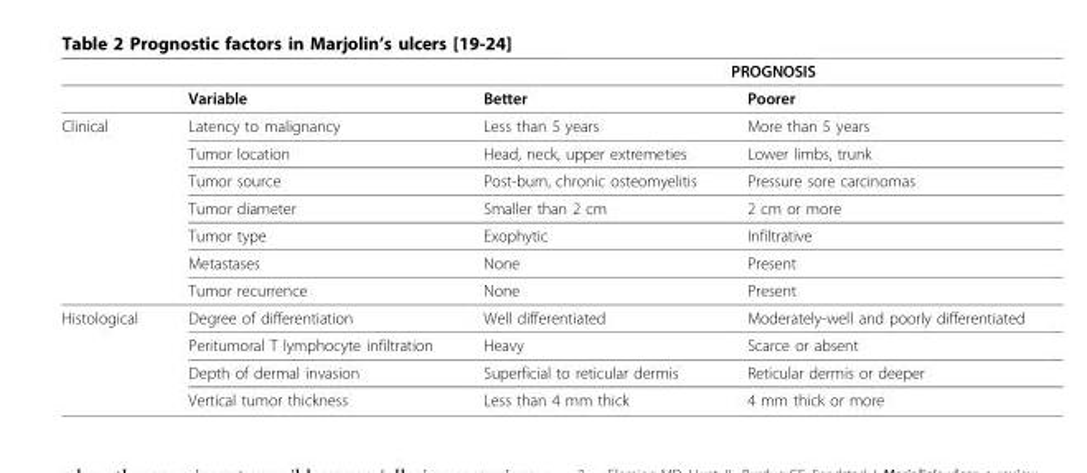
<table><thead><tr><td rowspan="2"></td><td rowspan="2">Variable</td><td colspan="2">PROGNOSIS</td></tr><tr><td>Better</td><td>Poorer</td></tr></thead><tbody><tr><td rowspan="7">Clinical</td><td>Latency to malignancy</td><td>Less than 5 years</td><td>More than 5 years</td></tr><tr><td>Tumor location</td><td>Head, neck, upper extremeties</td><td>Lower limbs, trunk</td></tr><tr><td>Tumor source</td><td>Post-burn, chronic osteomyelitis</td><td>Pressure sore carcinomas</td></tr><tr><td>Tumor diameter</td><td>Smaller than 2 cm</td><td>2 cm or more</td></tr><tr><td>Tumor type</td><td>Exophytic</td><td>Infiltrative</td></tr><tr><td>Metastases</td><td>None</td><td>Present</td></tr><tr><td>Tumor recurrence</td><td>None</td><td>Present</td></tr><tr><td rowspan="4">Histological</td><td>Degree of differentiation</td><td>Well differentiated</td><td>Moderately-well and poorly differentiated</td></tr><tr><td>Peritumoral T lymphocyte infiltration</td><td>Heavy</td><td>Scarce or absent</td></tr><tr><td>Depth of dermal invasion</td><td>Superficial to reticular dermis</td><td>Reticular dermis or deeper</td></tr><tr><td>Vertical tumor thickness</td><td>Less than 4 mm thick</td><td>4 mm thick or more</td></tr></tbody></table>